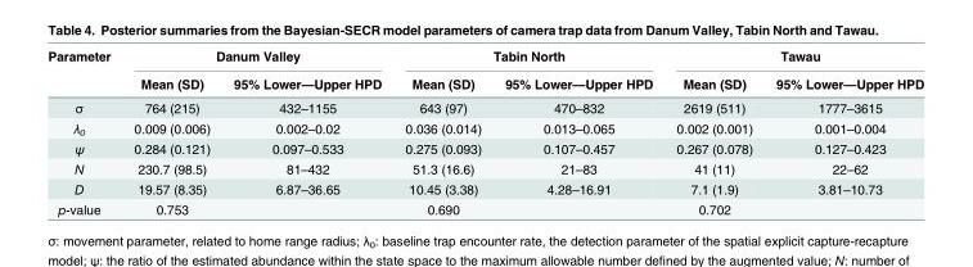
<table><thead><tr><td rowspan="2">Parameter</td><td colspan="2">Danum Valley</td><td colspan="2">Tabin North</td><td colspan="2">Tawau</td></tr><tr><td>Mean (SD)</td><td>95% Lower—Upper HPD</td><td>Mean (SD)</td><td>95% Lower—Upper HPD</td><td>Mean (SD)</td><td>95% Lower—Upper HPD</td></tr></thead><tbody><tr><td>σ</td><td>764 (215)</td><td>432–1155</td><td>643 (97)</td><td>470–832</td><td>2619 (511)</td><td>1777–3615</td></tr><tr><td>λ<sub>0</sub></td><td>0.009 (0.006)</td><td>0.002–0.02</td><td>0.036 (0.014)</td><td>0.013–0.065</td><td>0.002 (0.001)</td><td>0.001–0.004</td></tr><tr><td>ψ</td><td>0.284 (0.121)</td><td>0.097–0.533</td><td>0.275 (0.093)</td><td>0.107–0.457</td><td>0.267 (0.078)</td><td>0.127–0.423</td></tr><tr><td>N</td><td>230.7 (98.5)</td><td>81–432</td><td>51.3 (16.6)</td><td>21–83</td><td>41 (11)</td><td>22–62</td></tr><tr><td>D</td><td>19.57 (8.35)</td><td>6.87–36.65</td><td>10.45 (3.38)</td><td>4.28–16.91</td><td>7.1 (1.9)</td><td>3.81–10.73</td></tr><tr><td>p-value</td><td>0.753</td><td></td><td>0.690</td><td></td><td>0.702</td><td></td></tr></tbody></table>